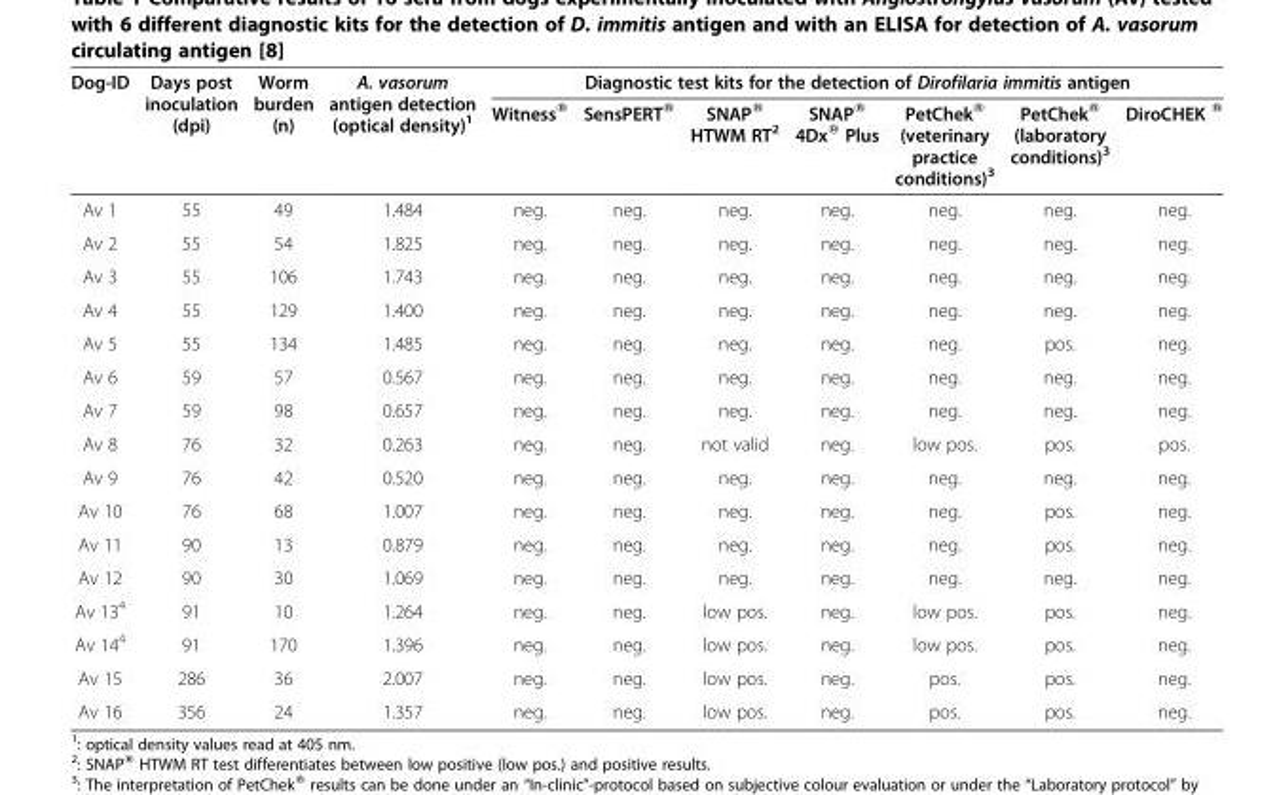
<table><thead><tr><td rowspan="2">Dog-ID</td><td rowspan="2">Days post inoculation (dpi)</td><td rowspan="2">Worm burden (n)</td><td rowspan="2">A. vasorum antigen detection (optical density)<sup>1</sup></td><td colspan="7">Diagnostic test kits for the detection of Dirofilaria immitis antigen</td></tr><tr><td>Witness®</td><td>SensPERT®</td><td>SNAP® HTWM RT<sup>2</sup></td><td>SNAP® 4Dx® Plus</td><td>PetChek® (veterinary practice conditions)<sup>3</sup></td><td>PetChek® (laboratory conditions)<sup>3</sup></td><td>DiroCHEK</td></tr></thead><tbody><tr><td>Av 1</td><td>55</td><td>49</td><td>1.484</td><td>neg.</td><td>neg.</td><td>neg.</td><td>neg.</td><td>neg.</td><td>neg.</td><td>neg.</td></tr><tr><td>Av 2</td><td>55</td><td>54</td><td>1.825</td><td>neg.</td><td>neg.</td><td>neg.</td><td>neg.</td><td>neg.</td><td>neg.</td><td>neg.</td></tr><tr><td>Av 3</td><td>55</td><td>106</td><td>1.743</td><td>neg.</td><td>neg.</td><td>neg.</td><td>neg.</td><td>neg.</td><td>neg.</td><td>neg.</td></tr><tr><td>Av 4</td><td>55</td><td>129</td><td>1.400</td><td>neg.</td><td>neg.</td><td>neg.</td><td>neg.</td><td>neg.</td><td>neg.</td><td>neg.</td></tr><tr><td>Av 5</td><td>55</td><td>134</td><td>1.485</td><td>neg.</td><td>neg.</td><td>neg.</td><td>neg.</td><td>neg.</td><td>pos.</td><td>neg.</td></tr><tr><td>Av 6</td><td>59</td><td>57</td><td>0.567</td><td>neg.</td><td>neg.</td><td>neg.</td><td>neg.</td><td>neg.</td><td>neg.</td><td>neg.</td></tr><tr><td>Av 7</td><td>59</td><td>98</td><td>0.657</td><td>neg.</td><td>neg.</td><td>neg.</td><td>neg.</td><td>neg.</td><td>neg.</td><td>neg.</td></tr><tr><td>Av 8</td><td>76</td><td>32</td><td>0.263</td><td>neg.</td><td>neg.</td><td>not valid</td><td>neg.</td><td>low pos.</td><td>pos.</td><td>pos.</td></tr><tr><td>Av 9</td><td>76</td><td>42</td><td>0.520</td><td>neg.</td><td>neg.</td><td>neg.</td><td>neg.</td><td>neg.</td><td>neg.</td><td>neg.</td></tr><tr><td>Av 10</td><td>76</td><td>68</td><td>1.007</td><td>neg.</td><td>neg.</td><td>neg.</td><td>neg.</td><td>neg.</td><td>pos.</td><td>neg.</td></tr><tr><td>Av 11</td><td>90</td><td>13</td><td>0.879</td><td>neg.</td><td>neg.</td><td>neg.</td><td>neg.</td><td>neg.</td><td>pos.</td><td>neg.</td></tr><tr><td>Av 12</td><td>90</td><td>30</td><td>1.069</td><td>neg.</td><td>neg.</td><td>neg.</td><td>neg.</td><td>neg.</td><td>neg.</td><td>neg.</td></tr><tr><td>Av 13<sup>4</sup></td><td>91</td><td>10</td><td>1.264</td><td>neg.</td><td>neg.</td><td>low pos.</td><td>neg.</td><td>low pos.</td><td>pos.</td><td>neg.</td></tr><tr><td>Av 14<sup>4</sup></td><td>91</td><td>170</td><td>1.396</td><td>neg.</td><td>neg.</td><td>low pos.</td><td>neg.</td><td>low pos.</td><td>pos.</td><td>neg.</td></tr><tr><td>Av 15</td><td>286</td><td>36</td><td>2.007</td><td>neg.</td><td>neg.</td><td>low pos.</td><td>neg.</td><td>pos.</td><td>pos.</td><td>neg.</td></tr><tr><td>Av 16</td><td>356</td><td>24</td><td>1.357</td><td>neg.</td><td>neg.</td><td>low pos.</td><td>neg.</td><td>pos.</td><td>pos.</td><td>neg.</td></tr></tbody></table>